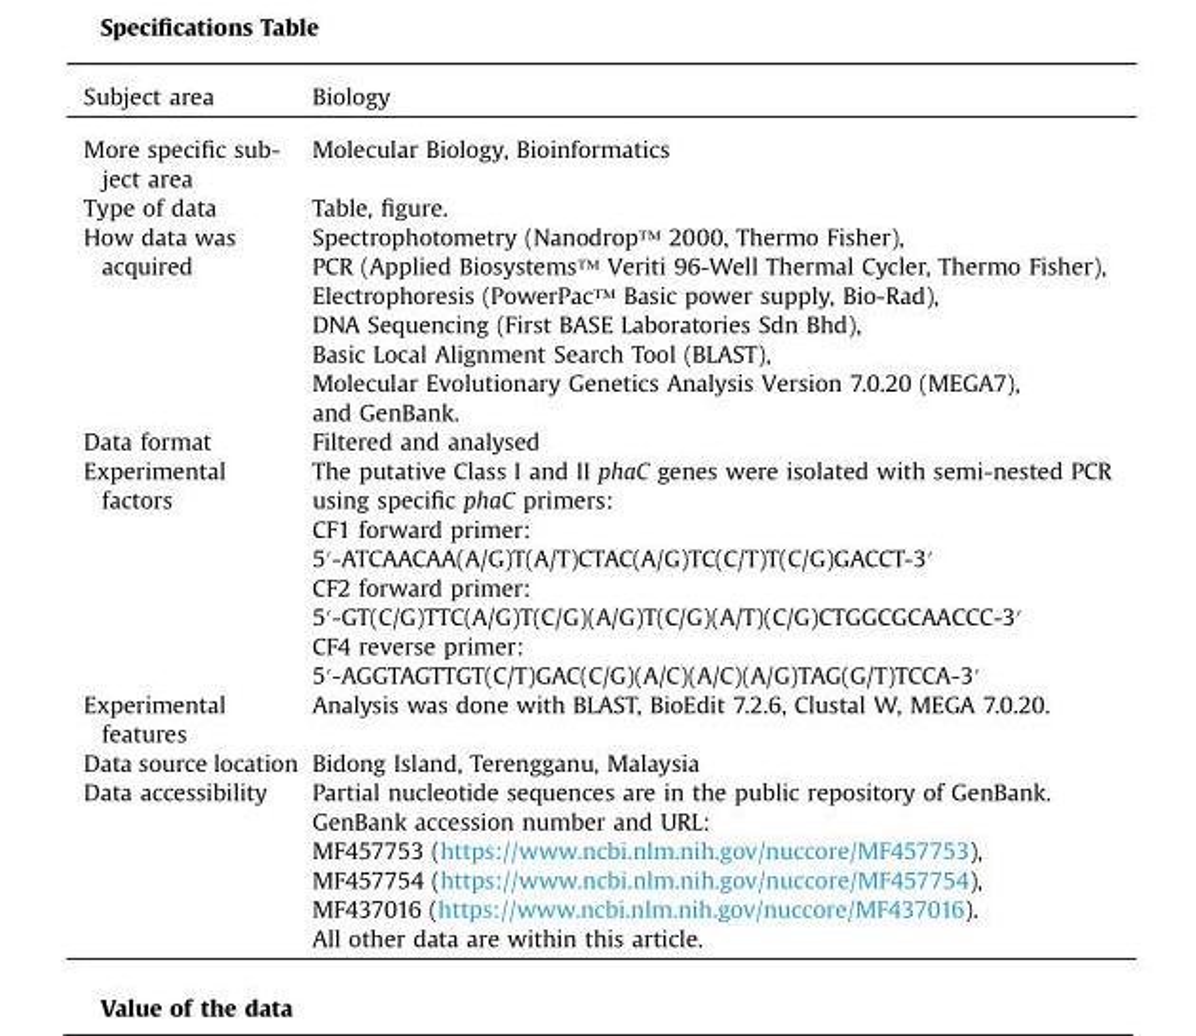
<table><thead><tr><td>Subject area</td><td>Biology</td></tr></thead><tbody><tr><td>More specific sub- ject area</td><td>Molecular Biology, Bioinformatics</td></tr><tr><td>Type of data</td><td>Table, figure.</td></tr><tr><td rowspan="6">How data was acquired</td><td>Spectrophotometry (Nanodrop™ 2000, Thermo Fisher),</td></tr><tr><td>PCR (Applied Biosystems™ Veriti 96-Well Thermal Cycler, Thermo Fisher), Electrophoresis (PowerPac™ Basic power supply, Bio-Rad),</td></tr><tr><td>DNA Sequencing (First BASE Laboratories Sdn Bhd),</td></tr><tr><td>Basic Local Alignment Search Tool (BLAST),</td></tr><tr><td>Molecular Evolutionary Genetics Analysis Version 7.0.20 (MEGA7),</td></tr><tr><td>and GenBank.</td></tr><tr><td>Data format</td><td>Filtered and analysed</td></tr><tr><td rowspan="7">Experimental factors</td><td>The putative Class I and II phaC genes were isolated with semi-nested PCR using specific phaC primers:</td></tr><tr><td>CF1 forward primer:</td></tr><tr><td>5′-ATCAACAA(A/G)T(A/T)CTAC(A/G)TC(C/T)T(C/G)GACCT-3′</td></tr><tr><td>CF2 forward primer:</td></tr><tr><td>5′-GT(C/G)TTC(A/G)T(C/G)(A/G)T(C/G)(A/T)(C/G)CTGGCGCAACCC-3′</td></tr><tr><td>CF4 reverse primer:</td></tr><tr><td>5′-AGGTAGTTGT(C/T)GAC(C/G)(A/C)(A/C)(A/G)TAG(G/T)TCCA-3′</td></tr><tr><td>Experimental features</td><td>Analysis was done with BLAST, BioEdit 7.2.6, Clustal W, MEGA 7.0.20.</td></tr><tr><td>Data source location</td><td>Bidong Island, Terengganu, Malaysia</td></tr><tr><td rowspan="6">Data accessibility</td><td>Partial nucleotide sequences are in the public repository of GenBank.</td></tr><tr><td>GenBank accession number and URL:</td></tr><tr><td>MF457753 (https://www.ncbi.nlm.nih.gov/nuccore/MF457753),</td></tr><tr><td>MF457754 (https://www.ncbi.nlm.nih.gov/nuccore/MF457754),</td></tr><tr><td>MF437016 (https://www.ncbi.nlm.nih.gov/nuccore/MF437016).</td></tr><tr><td>All other data are within this article.</td></tr></tbody></table>